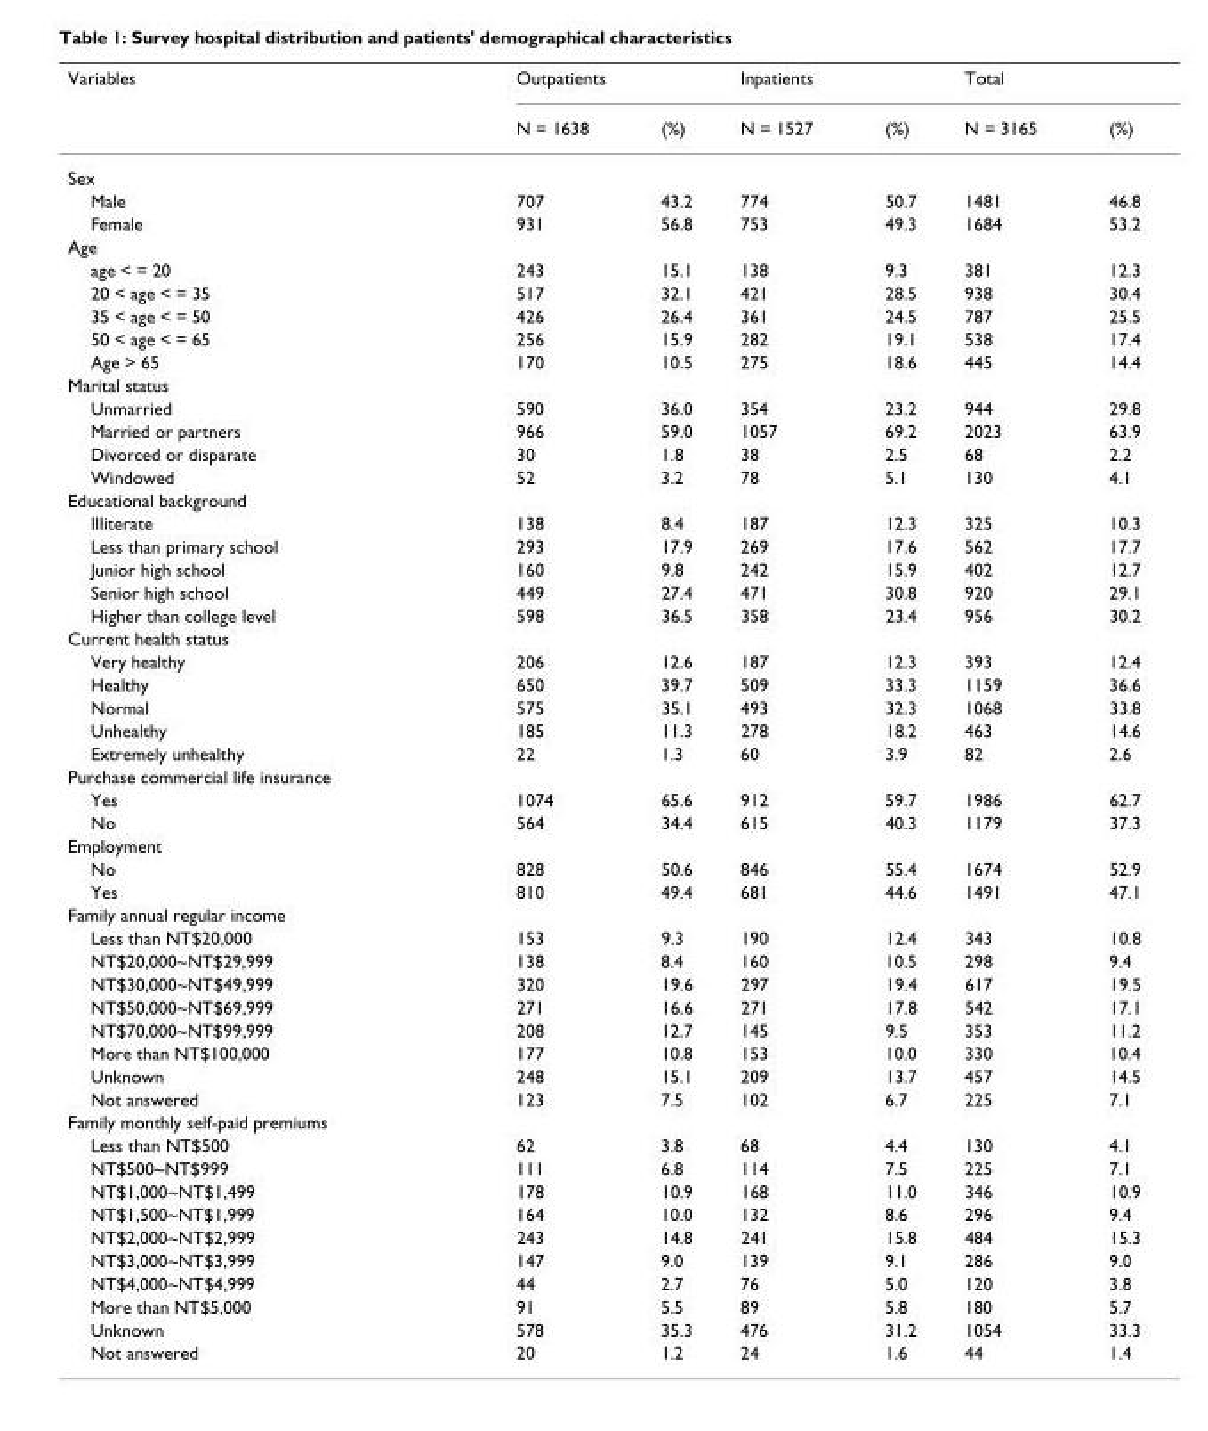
<table><thead><tr><td rowspan="2">Variables</td><td colspan="2">Outpatients</td><td colspan="2">Inpatients</td><td colspan="2">Total</td></tr><tr><td>N = 1638</td><td>(%)</td><td>N = 1527</td><td>(%)</td><td>N = 3165</td><td>(%)</td></tr></thead><tbody><tr><td colspan="7">Sex</td></tr><tr><td>Male</td><td>707</td><td>43.2</td><td>774</td><td>50.7</td><td>1481</td><td>46.8</td></tr><tr><td>Female</td><td>931</td><td>56.8</td><td>753</td><td>49.3</td><td>1684</td><td>53.2</td></tr><tr><td colspan="7">Age</td></tr><tr><td>age &lt; = 20</td><td>243</td><td>15.1</td><td>138</td><td>9.3</td><td>381</td><td>12.3</td></tr><tr><td>20 &lt; age &lt; = 35</td><td>517</td><td>32.1</td><td>421</td><td>28.5</td><td>938</td><td>30.4</td></tr><tr><td>35 &lt; age &lt; = 50</td><td>426</td><td>26.4</td><td>361</td><td>24.5</td><td>787</td><td>25.5</td></tr><tr><td>50 &lt; age &lt; = 65</td><td>256</td><td>15.9</td><td>282</td><td>19.1</td><td>538</td><td>17.4</td></tr><tr><td>Age &gt; 65</td><td>170</td><td>10.5</td><td>275</td><td>18.6</td><td>445</td><td>14.4</td></tr><tr><td colspan="7">Marital status</td></tr><tr><td>Unmarried</td><td>590</td><td>36.0</td><td>354</td><td>23.2</td><td>944</td><td>29.8</td></tr><tr><td>Married or partners</td><td>966</td><td>59.0</td><td>1057</td><td>69.2</td><td>2023</td><td>63.9</td></tr><tr><td>Divorced or disparate</td><td>30</td><td>1.8</td><td>38</td><td>2.5</td><td>68</td><td>2.2</td></tr><tr><td>Windowed</td><td>52</td><td>3.2</td><td>78</td><td>5.1</td><td>130</td><td>4.1</td></tr><tr><td colspan="7">Educational background</td></tr><tr><td>Illiterate</td><td>138</td><td>8.4</td><td>187</td><td>12.3</td><td>325</td><td>10.3</td></tr><tr><td>Less than primary school</td><td>293</td><td>17.9</td><td>269</td><td>17.6</td><td>562</td><td>17.7</td></tr><tr><td>Junior high school</td><td>160</td><td>9.8</td><td>242</td><td>15.9</td><td>402</td><td>12.7</td></tr><tr><td>Senior high school</td><td>449</td><td>27.4</td><td>471</td><td>30.8</td><td>920</td><td>29.1</td></tr><tr><td>Higher than college level</td><td>598</td><td>36.5</td><td>358</td><td>23.4</td><td>956</td><td>30.2</td></tr><tr><td colspan="7">Current health status</td></tr><tr><td>Very healthy</td><td>206</td><td>12.6</td><td>187</td><td>12.3</td><td>393</td><td>12.4</td></tr><tr><td>Healthy</td><td>650</td><td>39.7</td><td>509</td><td>33.3</td><td>1159</td><td>36.6</td></tr><tr><td>Normal</td><td>575</td><td>35.1</td><td>493</td><td>32.3</td><td>1068</td><td>33.8</td></tr><tr><td>Unhealthy</td><td>185</td><td>11.3</td><td>278</td><td>18.2</td><td>463</td><td>14.6</td></tr><tr><td>Extremely unhealthy</td><td>22</td><td>1.3</td><td>60</td><td>3.9</td><td>82</td><td>2.6</td></tr><tr><td colspan="7">Purchase commercial life insurance</td></tr><tr><td>Yes</td><td>1074</td><td>65.6</td><td>912</td><td>59.7</td><td>1986</td><td>62.7</td></tr><tr><td>No</td><td>564</td><td>34.4</td><td>615</td><td>40.3</td><td>1179</td><td>37.3</td></tr><tr><td colspan="7">Employment</td></tr><tr><td>No</td><td>828</td><td>50.6</td><td>846</td><td>55.4</td><td>1674</td><td>52.9</td></tr><tr><td>Yes</td><td>810</td><td>49.4</td><td>681</td><td>44.6</td><td>1491</td><td>47.1</td></tr><tr><td colspan="7">Family annual regular income</td></tr><tr><td>Less than NT$20,000</td><td>153</td><td>9.3</td><td>190</td><td>12.4</td><td>343</td><td>10.8</td></tr><tr><td>NT$20,000~NT$29,999</td><td>138</td><td>8.4</td><td>160</td><td>10.5</td><td>298</td><td>9.4</td></tr><tr><td>NT$30,000~NT$49,999</td><td>320</td><td>19.6</td><td>297</td><td>19.4</td><td>617</td><td>19.5</td></tr><tr><td>NT$50,000~NT$69,999</td><td>271</td><td>16.6</td><td>271</td><td>17.8</td><td>542</td><td>17.1</td></tr><tr><td>NT$70,000~NT$99,999</td><td>208</td><td>12.7</td><td>145</td><td>9.5</td><td>353</td><td>11.2</td></tr><tr><td>More than NT$100,000</td><td>177</td><td>10.8</td><td>153</td><td>10.0</td><td>330</td><td>10.4</td></tr><tr><td>Unknown</td><td>248</td><td>15.1</td><td>209</td><td>13.7</td><td>457</td><td>14.5</td></tr><tr><td>Not answered</td><td>123</td><td>7.5</td><td>102</td><td>6.7</td><td>225</td><td>7.1</td></tr><tr><td colspan="7">Family monthly self-paid premiums</td></tr><tr><td>Less than NT$500</td><td>62</td><td>3.8</td><td>68</td><td>4.4</td><td>130</td><td>4.1</td></tr><tr><td>NT$500~NT$999</td><td>111</td><td>6.8</td><td>114</td><td>7.5</td><td>225</td><td>7.1</td></tr><tr><td>NT$1,000~NT$1,499</td><td>178</td><td>10.9</td><td>168</td><td>11.0</td><td>346</td><td>10.9</td></tr><tr><td>NT$1,500~NT$1,999</td><td>164</td><td>10.0</td><td>132</td><td>8.6</td><td>296</td><td>9.4</td></tr><tr><td>NT$2,000~NT$2,999</td><td>243</td><td>14.8</td><td>241</td><td>15.8</td><td>484</td><td>15.3</td></tr><tr><td>NT$3,000~NT$3,999</td><td>147</td><td>9.0</td><td>139</td><td>9.1</td><td>286</td><td>9.0</td></tr><tr><td>NT$4,000~NT$4,999</td><td>44</td><td>2.7</td><td>76</td><td>5.0</td><td>120</td><td>3.8</td></tr><tr><td>More than NT$5,000</td><td>91</td><td>5.5</td><td>89</td><td>5.8</td><td>180</td><td>5.7</td></tr><tr><td>Unknown</td><td>578</td><td>35.3</td><td>476</td><td>31.2</td><td>1054</td><td>33.3</td></tr><tr><td>Not answered</td><td>20</td><td>1.2</td><td>24</td><td>1.6</td><td>44</td><td>1.4</td></tr></tbody></table>